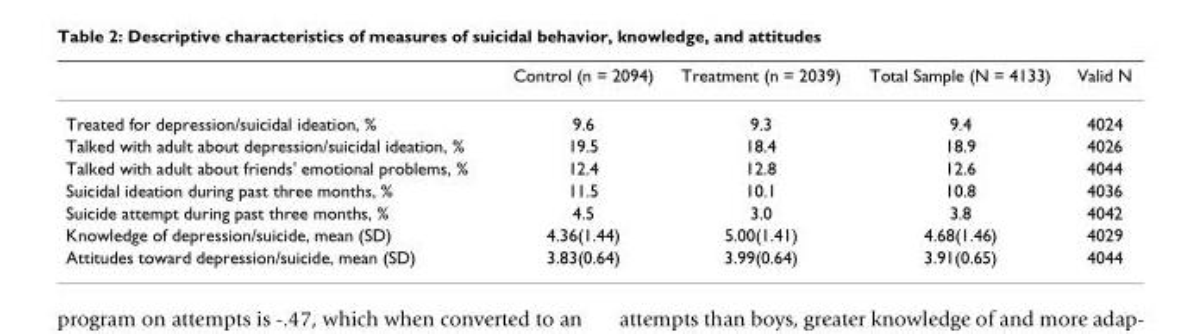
<table><thead><tr><td></td><td>Control (n = 2094)</td><td>Treatment (n = 2039)</td><td>Total Sample (N = 4133)</td><td>Valid N</td></tr></thead><tbody><tr><td>Treated for depression/suicidal ideation, %</td><td>9.6</td><td>9.3</td><td>9.4</td><td>4024</td></tr><tr><td>Talked with adult about depression/suicidal ideation, %</td><td>19.5</td><td>18.4</td><td>18.9</td><td>4026</td></tr><tr><td>Talked with adult about friends&#x27; emotional problems, %</td><td>12.4</td><td>12.8</td><td>12.6</td><td>4044</td></tr><tr><td>Suicidal ideation during past three months, %</td><td>11.5</td><td>10.1</td><td>10.8</td><td>4036</td></tr><tr><td>Suicide attempt during past three months, %</td><td>4.5</td><td>3.0</td><td>3.8</td><td>4042</td></tr><tr><td>Knowledge of depression/suicide, mean (SD)</td><td>4.36(1.44)</td><td>5.00(1.41)</td><td>4.68(1.46)</td><td>4029</td></tr><tr><td>Attitudes toward depression/suicide, mean (SD)</td><td>3.83(0.64)</td><td>3.99(0.64)</td><td>3.91(0.65)</td><td>4044</td></tr></tbody></table>